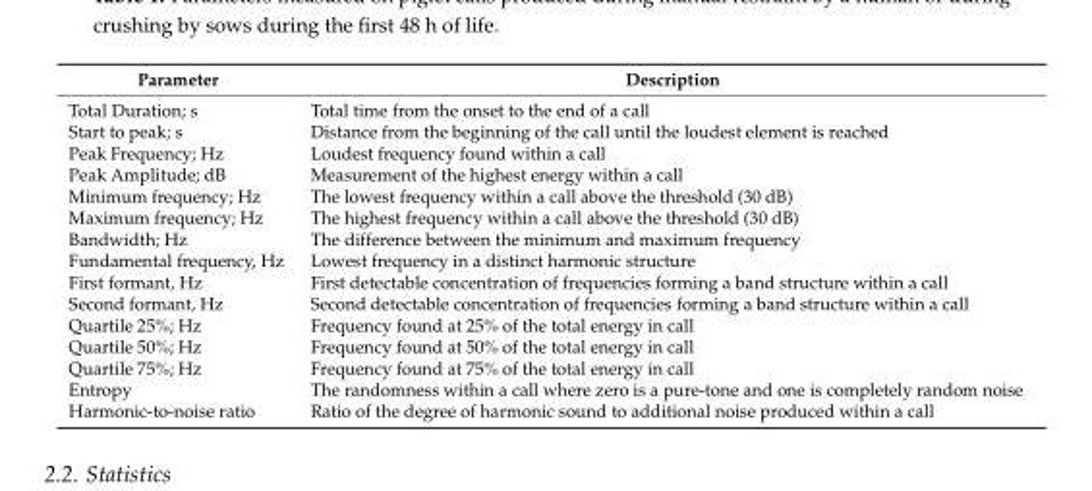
<table><thead><tr><td>Parameter</td><td>Description</td></tr></thead><tbody><tr><td>Total Duration; s</td><td>Total time from the onset to the end of a call</td></tr><tr><td>Start to peak; s</td><td>Distance from the beginning of the call until the loudest element is reached</td></tr><tr><td>Peak Frequency; Hz</td><td>Loudest frequency found within a call</td></tr><tr><td>Peak Amplitude; dB</td><td>Measurement of the highest energy within a call</td></tr><tr><td>Minimum frequency; Hz</td><td>The lowest frequency within a call above the threshold (30 dB)</td></tr><tr><td>Maximum frequency; Hz</td><td>The highest frequency within a call above the threshold (30 dB)</td></tr><tr><td>Bandwidth; Hz</td><td>The difference between the minimum and maximum frequency</td></tr><tr><td>Fundamental frequency, Hz</td><td>Lowest frequency in a distinct harmonic structure</td></tr><tr><td>First formant, Hz</td><td>First detectable concentration of frequencies forming a band structure within a call</td></tr><tr><td>Second formant, Hz</td><td>Second detectable concentration of frequencies forming a band structure within a call</td></tr><tr><td>Quartile 25%; Hz</td><td>Frequency found at 25% of the total energy in call</td></tr><tr><td>Quartile 50%; Hz</td><td>Frequency found at 50% of the total energy in call</td></tr><tr><td>Quartile 75%; Hz</td><td>Frequency found at 75% of the total energy in call</td></tr><tr><td>Entropy</td><td>The randomness within a call where zero is a pure-tone and one is completely random noise</td></tr><tr><td>Harmonic-to-noise ratio</td><td>Ratio of the degree of harmonic sound to additional noise produced within a call</td></tr></tbody></table>